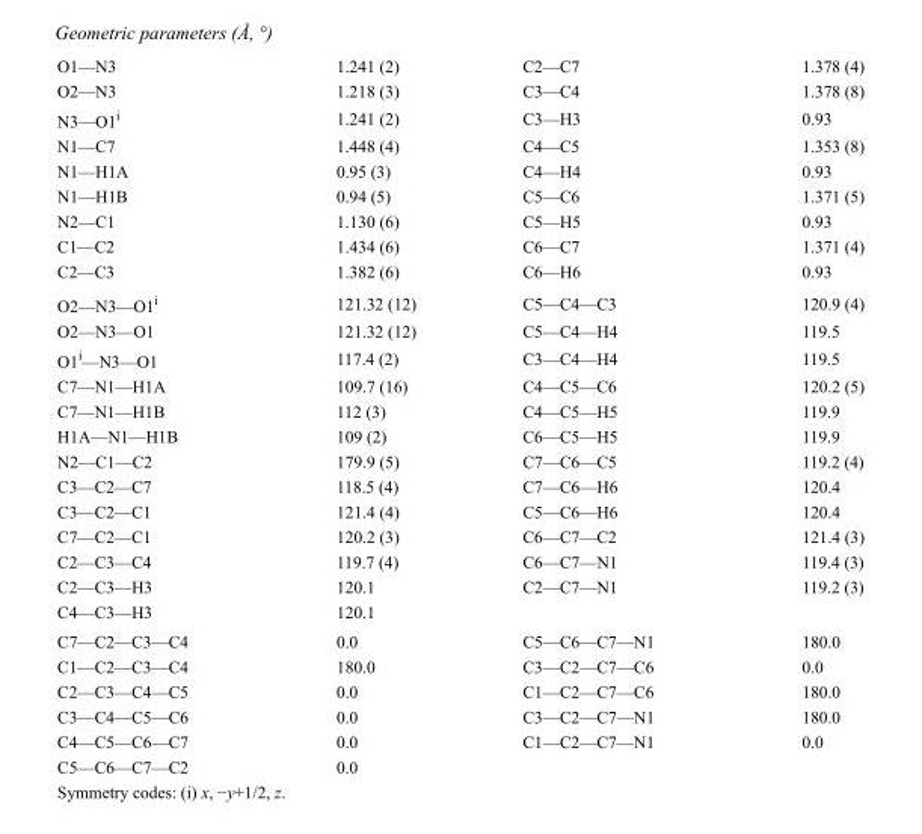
<table><tbody><tr><td>O1—N3</td><td>1.241 (2)</td><td>C2—C7</td><td>1.378 (4)</td></tr><tr><td>O2—N3</td><td>1.218 (3)</td><td>C3—C4</td><td>1.378 (8)</td></tr><tr><td>N3—O1<sup>i</sup></td><td>1.241 (2)</td><td>C3—H3</td><td>0.93</td></tr><tr><td>N1—C7</td><td>1.448 (4)</td><td>C4—C5</td><td>1.353 (8)</td></tr><tr><td>N1—H1A</td><td>0.95 (3)</td><td>C4—H4</td><td>0.93</td></tr><tr><td>N1—H1B</td><td>0.94 (5)</td><td>C5—C6</td><td>1.371 (5)</td></tr><tr><td>N2—C1</td><td>1.130 (6)</td><td>C5—H5</td><td>0.93</td></tr><tr><td>C1—C2</td><td>1.434 (6)</td><td>C6—C7</td><td>1.371 (4)</td></tr><tr><td>C2—C3</td><td>1.382 (6)</td><td>C6—H6</td><td>0.93</td></tr><tr><td>O2—N3—O1<sup>i</sup></td><td>121.32 (12)</td><td>C5—C4—C3</td><td>120.9 (4)</td></tr><tr><td>O2—N3—O1</td><td>121.32 (12)</td><td>C5—C4—H4</td><td>119.5</td></tr><tr><td>O1<sup>i</sup>—N3—O1</td><td>117.4 (2)</td><td>C3—C4—H4</td><td>119.5</td></tr><tr><td>C7—N1—H1A</td><td>109.7 (16)</td><td>C4—C5—C6</td><td>120.2 (5)</td></tr><tr><td>C7—N1—H1B</td><td>112 (3)</td><td>C4—C5—H5</td><td>119.9</td></tr><tr><td>H1A—N1—H1B</td><td>109 (2)</td><td>C6—C5—H5</td><td>119.9</td></tr><tr><td>N2—C1—C2</td><td>179.9 (5)</td><td>C7—C6—C5</td><td>119.2 (4)</td></tr><tr><td>C3—C2—C7</td><td>118.5 (4)</td><td>C7—C6—H6</td><td>120.4</td></tr><tr><td>C3—C2—C1</td><td>121.4 (4)</td><td>C5—C6—H6</td><td>120.4</td></tr><tr><td>C7—C2—C1</td><td>120.2 (3)</td><td>C6—C7—C2</td><td>121.4 (3)</td></tr><tr><td>C2—C3—C4</td><td>119.7 (4)</td><td>C6—C7—N1</td><td>119.4 (3)</td></tr><tr><td>C2—C3—H3</td><td>120.1</td><td>C2—C7—N1</td><td>119.2 (3)</td></tr><tr><td>C4—C3—H3</td><td>120.1</td><td></td><td></td></tr><tr><td>C7—C2—C3—C4</td><td>0.0</td><td>C5—C6—C7—N1</td><td>180.0</td></tr><tr><td>C1—C2—C3—C4</td><td>180.0</td><td>C3—C2—C7—C6</td><td>0.0</td></tr><tr><td>C2—C3—C4—C5</td><td>0.0</td><td>C1—C2—C7—C6</td><td>180.0</td></tr><tr><td>C3—C4—C5—C6</td><td>0.0</td><td>C3—C2—C7—N1</td><td>180.0</td></tr><tr><td>C4—C5—C6—C7</td><td>0.0</td><td>C1—C2—C7—N1</td><td>0.0</td></tr><tr><td>C5—C6—C7—C2</td><td>0.0</td><td></td><td></td></tr></tbody></table>